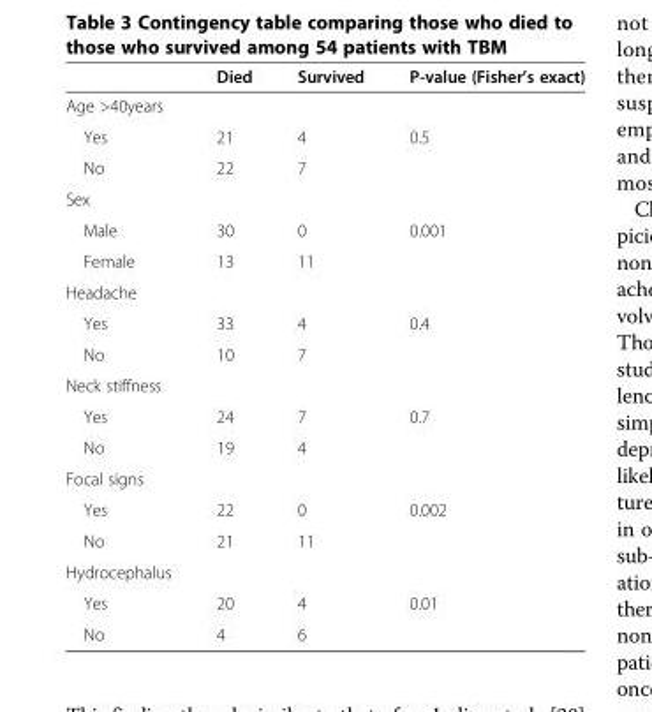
<table><thead><tr><td></td><td>Died</td><td>Survived</td><td>P-value (Fisher’s exact)</td></tr></thead><tbody><tr><td colspan="4">Age &gt;40years</td></tr><tr><td>Yes</td><td>21</td><td>4</td><td rowspan="2">0.5</td></tr><tr><td>No</td><td>22</td><td>7</td></tr><tr><td colspan="4">Sex</td></tr><tr><td>Male</td><td>30</td><td>0</td><td rowspan="2">0.001</td></tr><tr><td>Female</td><td>13</td><td>11</td></tr><tr><td colspan="4">Headache</td></tr><tr><td>Yes</td><td>33</td><td>4</td><td rowspan="2">0.4</td></tr><tr><td>No</td><td>10</td><td>7</td></tr><tr><td colspan="4">Neck stiffness</td></tr><tr><td>Yes</td><td>24</td><td>7</td><td rowspan="2">0.7</td></tr><tr><td>No</td><td>19</td><td>4</td></tr><tr><td colspan="4">Focal signs</td></tr><tr><td>Yes</td><td>22</td><td>0</td><td rowspan="2">0.002</td></tr><tr><td>No</td><td>21</td><td>11</td></tr><tr><td colspan="4">Hydrocephalus</td></tr><tr><td>Yes</td><td>20</td><td>4</td><td rowspan="2">0.01</td></tr><tr><td>No</td><td>4</td><td>6</td></tr></tbody></table>